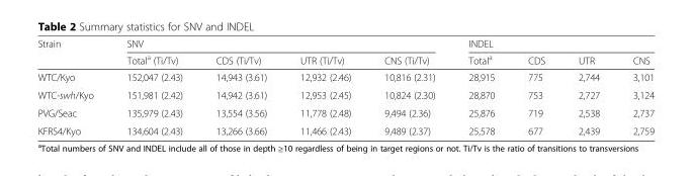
<table><thead><tr><td rowspan="2">Strain</td><td colspan="4">SNV</td><td colspan="4">INDEL</td></tr><tr><td>Total<sup>a</sup> (Ti/Tv)</td><td>CDS (Ti/Tv)</td><td>UTR (Ti/Tv)</td><td>CNS (Ti/Tv)</td><td>Total<sup>a</sup></td><td>CDS</td><td>UTR</td><td>CNS</td></tr></thead><tbody><tr><td>WTC/Kyo</td><td>152,047 (2.43)</td><td>14,943 (3.61)</td><td>12,932 (2.46)</td><td>10,816 (2.31)</td><td>28,915</td><td>775</td><td>2,744</td><td>3,101</td></tr><tr><td>WTC-swh/Kyo</td><td>151,981 (2.42)</td><td>14,942 (3.61)</td><td>12,953 (2.45)</td><td>10,824 (2.30)</td><td>28,870</td><td>753</td><td>2,727</td><td>3,124</td></tr><tr><td>PVG/Seac</td><td>135,979 (2.43)</td><td>13,554 (3.56)</td><td>11,778 (2.48)</td><td>9,494 (2.36)</td><td>25,876</td><td>719</td><td>2,538</td><td>2,737</td></tr><tr><td>KFRS4/Kyo</td><td>134,604 (2.43)</td><td>13,266 (3.66)</td><td>11,466 (2.43)</td><td>9,489 (2.37)</td><td>25,578</td><td>677</td><td>2,439</td><td>2,759</td></tr></tbody></table>